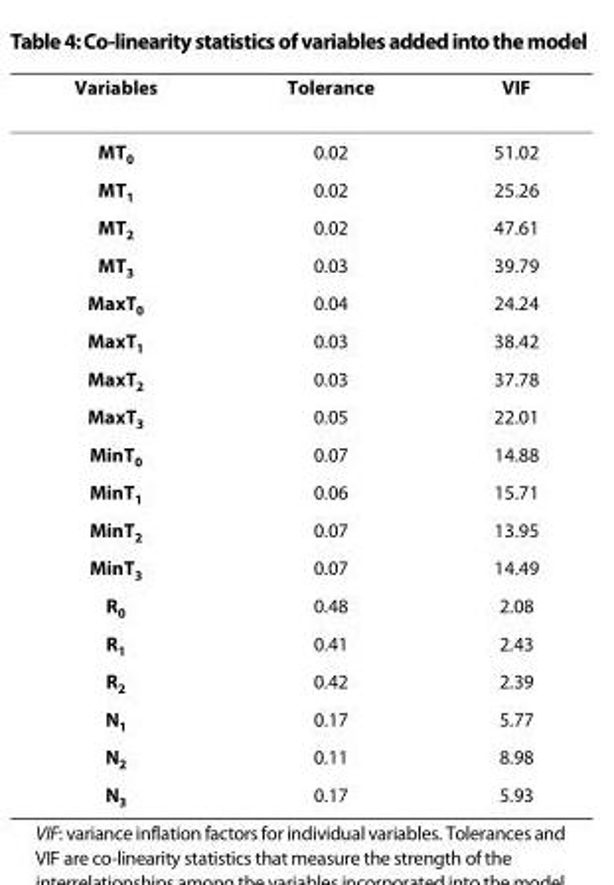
<table><thead><tr><td>Variables</td><td>Tolerance</td><td>VIF</td></tr></thead><tbody><tr><td>MT<sub>0</sub></td><td>0.02</td><td>51.02</td></tr><tr><td>MT<sub>1</sub></td><td>0.02</td><td>25.26</td></tr><tr><td>MT<sub>2</sub></td><td>0.02</td><td>47.61</td></tr><tr><td>MT<sub>3</sub></td><td>0.03</td><td>39.79</td></tr><tr><td>MaxT<sub>0</sub></td><td>0.04</td><td>24.24</td></tr><tr><td>MaxT<sub>1</sub></td><td>0.03</td><td>38.42</td></tr><tr><td>MaxT<sub>2</sub></td><td>0.03</td><td>37.78</td></tr><tr><td>MaxT<sub>3</sub></td><td>0.05</td><td>22.01</td></tr><tr><td>MinT<sub>0</sub></td><td>0.07</td><td>14.88</td></tr><tr><td>MinT<sub>1</sub></td><td>0.06</td><td>15.71</td></tr><tr><td>MinT<sub>2</sub></td><td>0.07</td><td>13.95</td></tr><tr><td>MinT<sub>3</sub></td><td>0.07</td><td>14.49</td></tr><tr><td>R<sub>0</sub></td><td>0.48</td><td>2.08</td></tr><tr><td>R<sub>1</sub></td><td>0.41</td><td>2.43</td></tr><tr><td>R<sub>2</sub></td><td>0.42</td><td>2.39</td></tr><tr><td>N<sub>1</sub></td><td>0.17</td><td>5.77</td></tr><tr><td>N<sub>2</sub></td><td>0.11</td><td>8.98</td></tr><tr><td>N<sub>3</sub></td><td>0.17</td><td>5.93</td></tr></tbody></table>